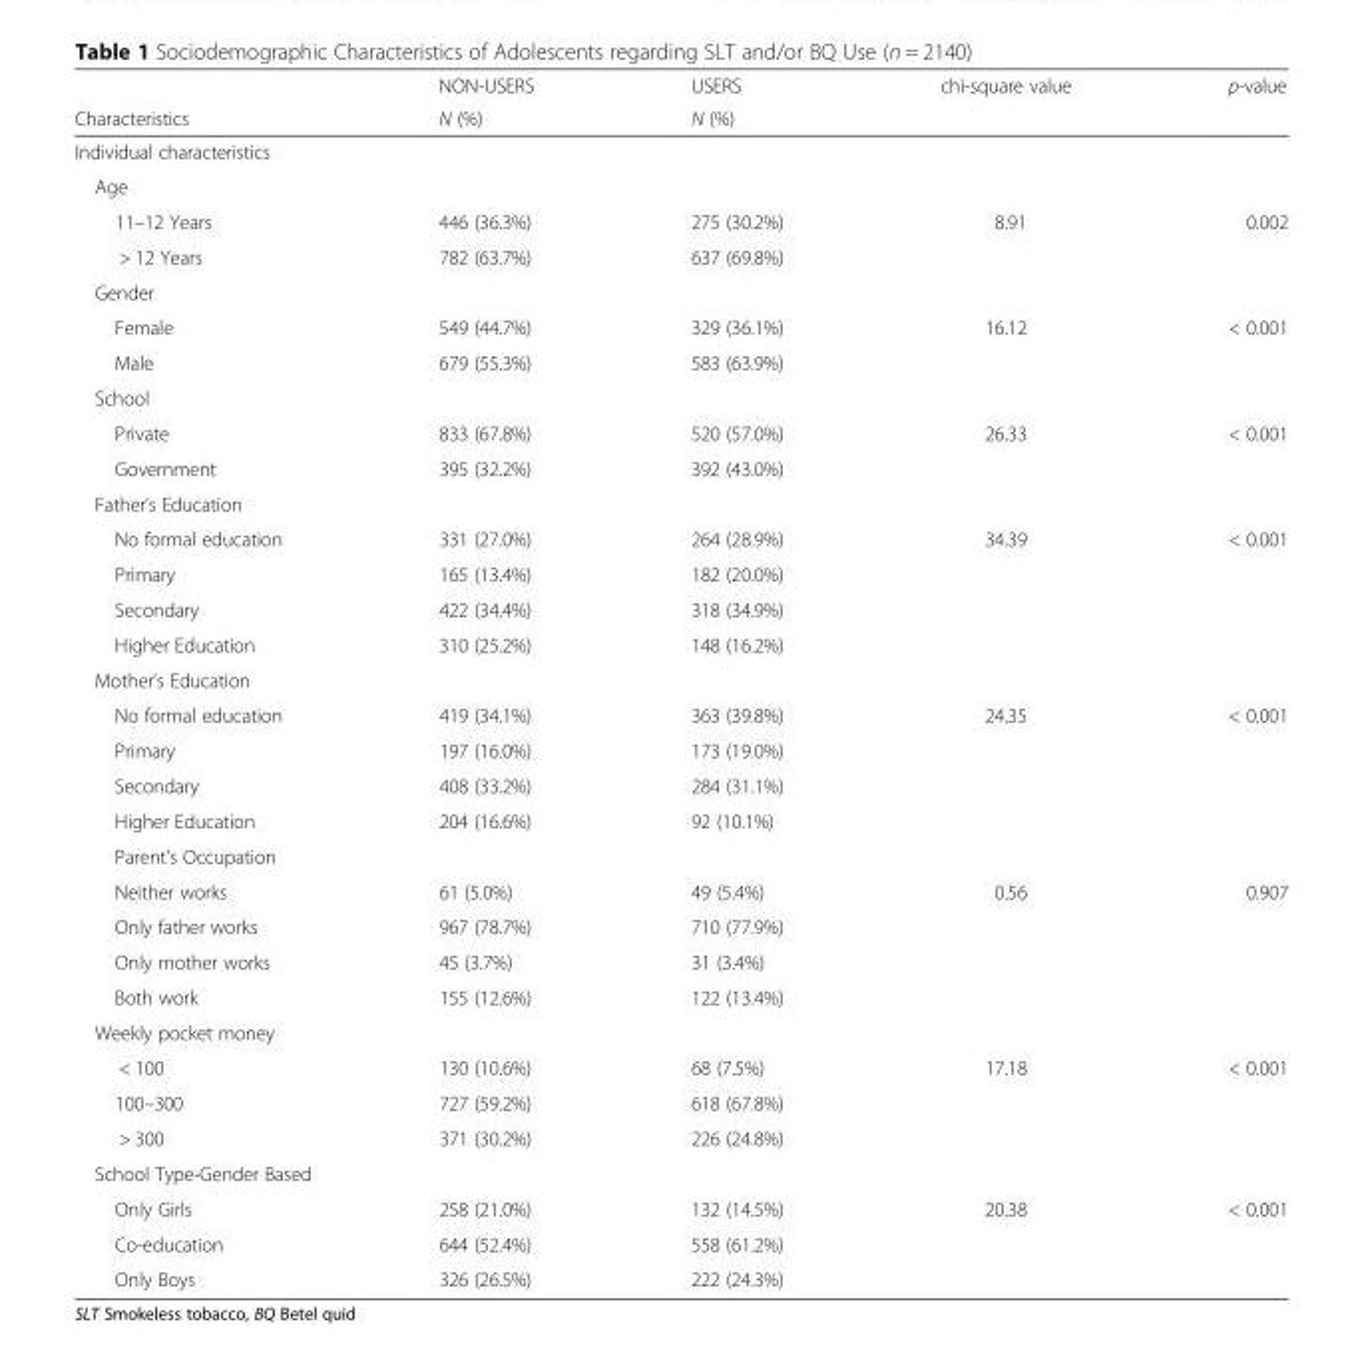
<table><thead><tr><td rowspan="2">Characteristics</td><td rowspan="2">NON-USERS N (%)</td><td rowspan="2">USERS N (%)</td><td rowspan="2">chi-square value</td><td rowspan="2">p-value</td></tr><tr></tr></thead><tbody><tr><td colspan="5">Individual characteristics</td></tr><tr><td colspan="5">Age</td></tr><tr><td>11–12 Years</td><td>446 (36.3%)</td><td>275 (30.2%)</td><td>8.91</td><td>0.002</td></tr><tr><td>&gt; 12 Years</td><td>782 (63.7%)</td><td>637 (69.8%)</td><td></td><td></td></tr><tr><td colspan="5">Gender</td></tr><tr><td>Female</td><td>549 (44.7%)</td><td>329 (36.1%)</td><td>16.12</td><td>&lt; 0.001</td></tr><tr><td>Male</td><td>679 (55.3%)</td><td>583 (63.9%)</td><td></td><td></td></tr><tr><td colspan="5">School</td></tr><tr><td>Private</td><td>833 (67.8%)</td><td>520 (57.0%)</td><td>26.33</td><td>&lt; 0.001</td></tr><tr><td>Government</td><td>395 (32.2%)</td><td>392 (43.0%)</td><td></td><td></td></tr><tr><td colspan="5">Father’s Education</td></tr><tr><td>No formal education</td><td>331 (27.0%)</td><td>264 (28.9%)</td><td>34.39</td><td>&lt; 0.001</td></tr><tr><td>Primary</td><td>165 (13.4%)</td><td>182 (20.0%)</td><td></td><td></td></tr><tr><td>Secondary</td><td>422 (34.4%)</td><td>318 (34.9%)</td><td></td><td></td></tr><tr><td>Higher Education</td><td>310 (25.2%)</td><td>148 (16.2%)</td><td></td><td></td></tr><tr><td colspan="5">Mother’s Education</td></tr><tr><td>No formal education</td><td>419 (34.1%)</td><td>363 (39.8%)</td><td>24.35</td><td>&lt; 0.001</td></tr><tr><td>Primary</td><td>197 (16.0%)</td><td>173 (19.0%)</td><td></td><td></td></tr><tr><td>Secondary</td><td>408 (33.2%)</td><td>284 (31.1%)</td><td></td><td></td></tr><tr><td>Higher Education</td><td>204 (16.6%)</td><td>92 (10.1%)</td><td></td><td></td></tr><tr><td colspan="5">Parent’s Occupation</td></tr><tr><td>Neither works</td><td>61 (5.0%)</td><td>49 (5.4%)</td><td>0.56</td><td>0.907</td></tr><tr><td>Only father works</td><td>967 (78.7%)</td><td>710 (77.9%)</td><td></td><td></td></tr><tr><td>Only mother works</td><td>45 (3.7%)</td><td>31 (3.4%)</td><td></td><td></td></tr><tr><td>Both work</td><td>155 (12.6%)</td><td>122 (13.4%)</td><td></td><td></td></tr><tr><td colspan="5">Weekly pocket money</td></tr><tr><td>&lt; 100</td><td>130 (10.6%)</td><td>68 (7.5%)</td><td>17.18</td><td>&lt; 0.001</td></tr><tr><td>100–300</td><td>727 (59.2%)</td><td>618 (67.8%)</td><td></td><td></td></tr><tr><td>&gt; 300</td><td>371 (30.2%)</td><td>226 (24.8%)</td><td></td><td></td></tr><tr><td colspan="5">School Type-Gender Based</td></tr><tr><td>Only Girls</td><td>258 (21.0%)</td><td>132 (14.5%)</td><td>20.38</td><td>&lt; 0.001</td></tr><tr><td>Co-education</td><td>644 (52.4%)</td><td>558 (61.2%)</td><td></td><td></td></tr><tr><td>Only Boys</td><td>326 (26.5%)</td><td>222 (24.3%)</td><td></td><td></td></tr></tbody></table>